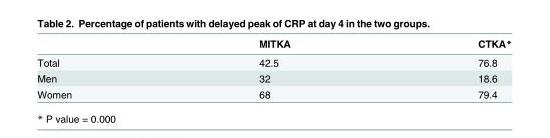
<table><thead><tr><td></td><td>MITKA</td><td>CTKA*</td></tr></thead><tbody><tr><td>Total</td><td>42.5</td><td>76.8</td></tr><tr><td>Men</td><td>32</td><td>18.6</td></tr><tr><td>Women</td><td>68</td><td>79.4</td></tr></tbody></table>